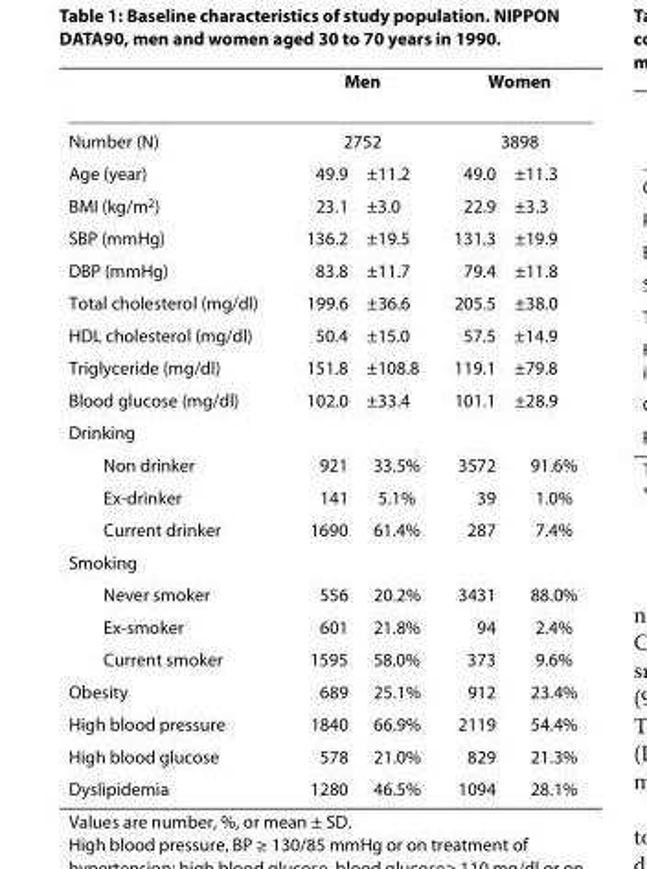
<table><thead><tr><td rowspan="3">Number (N) Age (year)</td><td rowspan="2" colspan="2">Men 2752</td><td rowspan="2" colspan="2">Women 3898</td></tr><tr></tr><tr><td>49.9</td><td>±11.2</td><td>49.0</td><td>±11.3</td></tr></thead><tbody><tr><td>BMI (kg/m<sup>2</sup>)</td><td>23.1</td><td>±3.0</td><td>22.9</td><td>±3.3</td></tr><tr><td>SBP (mmHg)</td><td>136.2</td><td>±19.5</td><td>131.3</td><td>±19.9</td></tr><tr><td>DBP (mmHg)</td><td>83.8</td><td>±11.7</td><td>79.4</td><td>±11.8</td></tr><tr><td>Total cholesterol (mg/dl)</td><td>199.6</td><td>±36.6</td><td>205.5</td><td>±38.0</td></tr><tr><td>HDL cholesterol (mg/dl)</td><td>50.4</td><td>±15.0</td><td>57.5</td><td>±14.9</td></tr><tr><td>Triglyceride (mg/dl)</td><td>151.8</td><td>±108.8</td><td>119.1</td><td>±79.8</td></tr><tr><td>Blood glucose (mg/dl)</td><td>102.0</td><td>±33.4</td><td>101.1</td><td>±28.9</td></tr><tr><td colspan="5">Drinking</td></tr><tr><td>Non drinker</td><td>921</td><td>33.5%</td><td>3572</td><td>91.6%</td></tr><tr><td>Ex-drinker</td><td>141</td><td>5.1%</td><td>39</td><td>1.0%</td></tr><tr><td>Current drinker</td><td>1690</td><td>61.4%</td><td>287</td><td>7.4%</td></tr><tr><td colspan="5">Smoking</td></tr><tr><td>Never smoker</td><td>556</td><td>20.2%</td><td>3431</td><td>88.0%</td></tr><tr><td>Ex-smoker</td><td>601</td><td>21.8%</td><td>94</td><td>2.4%</td></tr><tr><td>Current smoker</td><td>1595</td><td>58.0%</td><td>373</td><td>9.6%</td></tr><tr><td>Obesity</td><td>689</td><td>25.1%</td><td>912</td><td>23.4%</td></tr><tr><td>High blood pressure</td><td>1840</td><td>66.9%</td><td>2119</td><td>54.4%</td></tr><tr><td>High blood glucose</td><td>578</td><td>21.0%</td><td>829</td><td>21.3%</td></tr><tr><td>Dyslipidemia</td><td>1280</td><td>46.5%</td><td>1094</td><td>28.1%</td></tr></tbody></table>